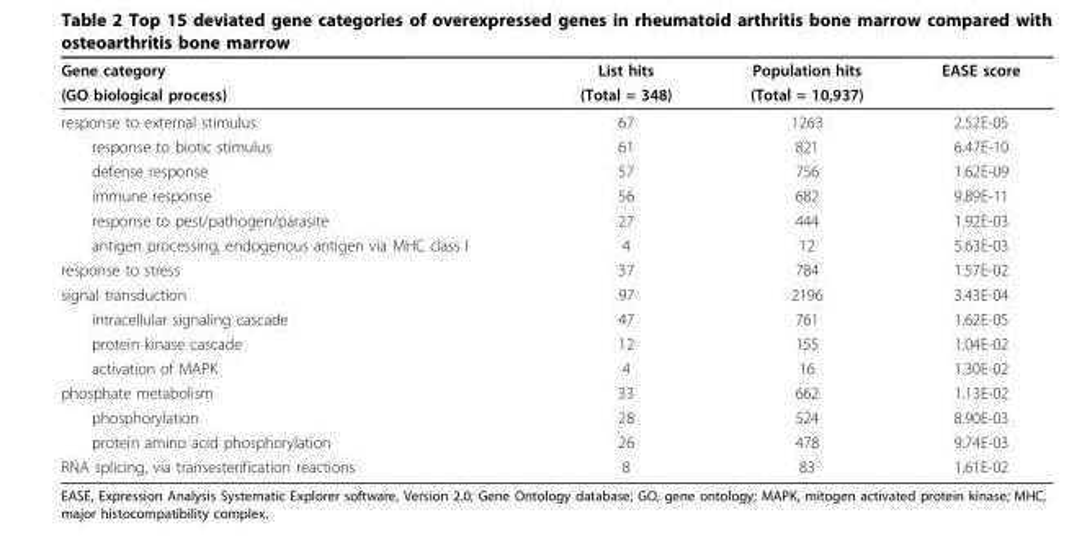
<table><thead><tr><td rowspan="2">Gene category (GO biological process)</td><td rowspan="2">List hits (Total = 348)</td><td rowspan="2">Population hits (Total = 10,937)</td><td rowspan="2">EASE score</td></tr><tr></tr></thead><tbody><tr><td>response to external stimulus</td><td>67</td><td>1263</td><td>2.52E-05</td></tr><tr><td>response to biotic stimulus</td><td>61</td><td>821</td><td>6.47E-10</td></tr><tr><td>defense response</td><td>57</td><td>756</td><td>1.62E-09</td></tr><tr><td>immune response</td><td>56</td><td>682</td><td>9.89E-11</td></tr><tr><td>response to pest/pathogen/parasite</td><td>27</td><td>444</td><td>1.92E-03</td></tr><tr><td>antigen processing, endogenous antigen via MHC class I</td><td>4</td><td>12</td><td>5.63E-03</td></tr><tr><td>response to stress</td><td>37</td><td>784</td><td>1.57E-02</td></tr><tr><td>signal transduction</td><td>97</td><td>2196</td><td>3.43E-04</td></tr><tr><td>intracellular signaling cascade</td><td>47</td><td>761</td><td>1.62E-05</td></tr><tr><td>protein kinase cascade</td><td>12</td><td>155</td><td>1.04E-02</td></tr><tr><td>activation of MAPK</td><td>4</td><td>16</td><td>1.30E-02</td></tr><tr><td>phosphate metabolism</td><td>33</td><td>662</td><td>1.13E-02</td></tr><tr><td>phosphorylation</td><td>28</td><td>524</td><td>8.90E-03</td></tr><tr><td>protein amino acid phosphorylation</td><td>26</td><td>478</td><td>9.74E-03</td></tr><tr><td>RNA splicing, via transesterification reactions</td><td>8</td><td>83</td><td>1.61E-02</td></tr></tbody></table>